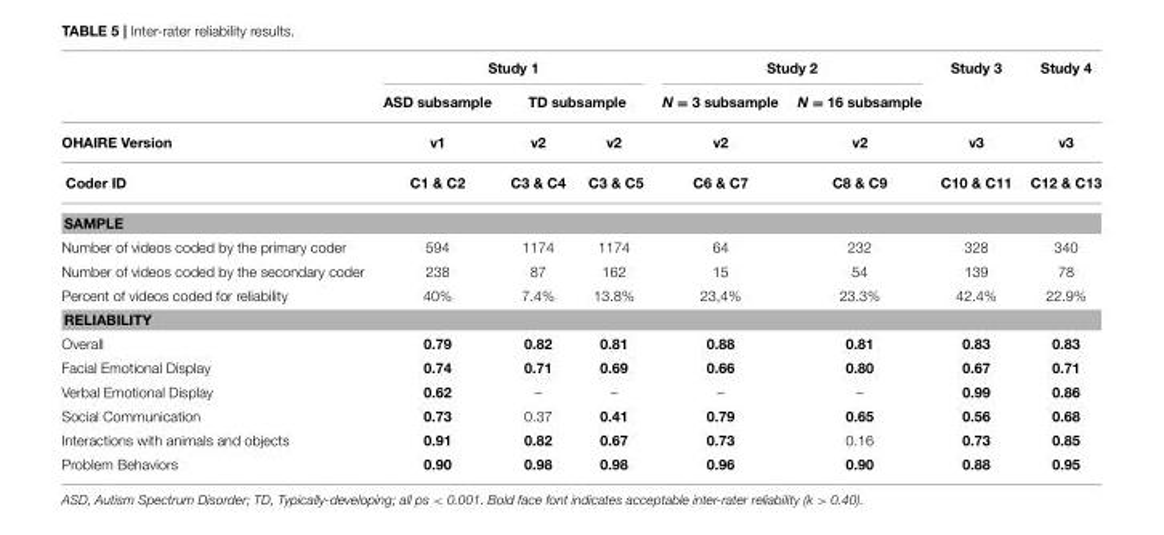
<table><thead><tr><td rowspan="3">OHAIRE Version</td><td colspan="3">Study 1</td><td colspan="2">Study 2</td><td rowspan="3">Study 3 v3</td><td rowspan="3">Study 4 v3</td></tr><tr><td rowspan="2">ASD subsample v1</td><td colspan="2">TD subsample</td><td rowspan="2">N = 3 subsample v2</td><td rowspan="2">N = 16 subsample v2</td></tr><tr><td>v2</td><td>v2</td></tr></thead><tbody><tr><td>Coder ID</td><td>C1 &amp; C2</td><td>C3 &amp; C4</td><td>C3 &amp; C5</td><td>C6 &amp; C7</td><td>C8 &amp; C9</td><td>C10 &amp; C11</td><td>C12 &amp; C13</td></tr><tr><td colspan="8">SAMPLE</td></tr><tr><td>Number of videos coded by the primary coder</td><td>594</td><td>1174</td><td>1174</td><td>64</td><td>232</td><td>328</td><td>340</td></tr><tr><td>Number of videos coded by the secondary coder</td><td>238</td><td>87</td><td>162</td><td>15</td><td>54</td><td>139</td><td>78</td></tr><tr><td>Percent of videos coded for reliability</td><td>40%</td><td>7.4%</td><td>13.8%</td><td>23,4%</td><td>23.3%</td><td>42.4%</td><td>22.9%</td></tr><tr><td colspan="8">RELIABILITY</td></tr><tr><td>Overall</td><td>0.79</td><td>0.82</td><td>0.81</td><td>0.88</td><td>0.81</td><td>0.83</td><td>0.83</td></tr><tr><td>Facial Emotional Display</td><td>0.74</td><td>0.71</td><td>0.69</td><td>0.66</td><td>0.80</td><td>0.67</td><td>0.71</td></tr><tr><td>Verbal Emotional Display</td><td>0.62</td><td>–</td><td>–</td><td>–</td><td>–</td><td>0.99</td><td>0.86</td></tr><tr><td>Social Communication</td><td>0.73</td><td>0.37</td><td>0.41</td><td>0.79</td><td>0.65</td><td>0.56</td><td>0.68</td></tr><tr><td>Interactions with animals and objects</td><td>0.91</td><td>0.82</td><td>0.67</td><td>0.73</td><td>0.16</td><td>0.73</td><td>0.85</td></tr><tr><td>Problem Behaviors</td><td>0.90</td><td>0.98</td><td>0.98</td><td>0.96</td><td>0.90</td><td>0.88</td><td>0.95</td></tr></tbody></table>